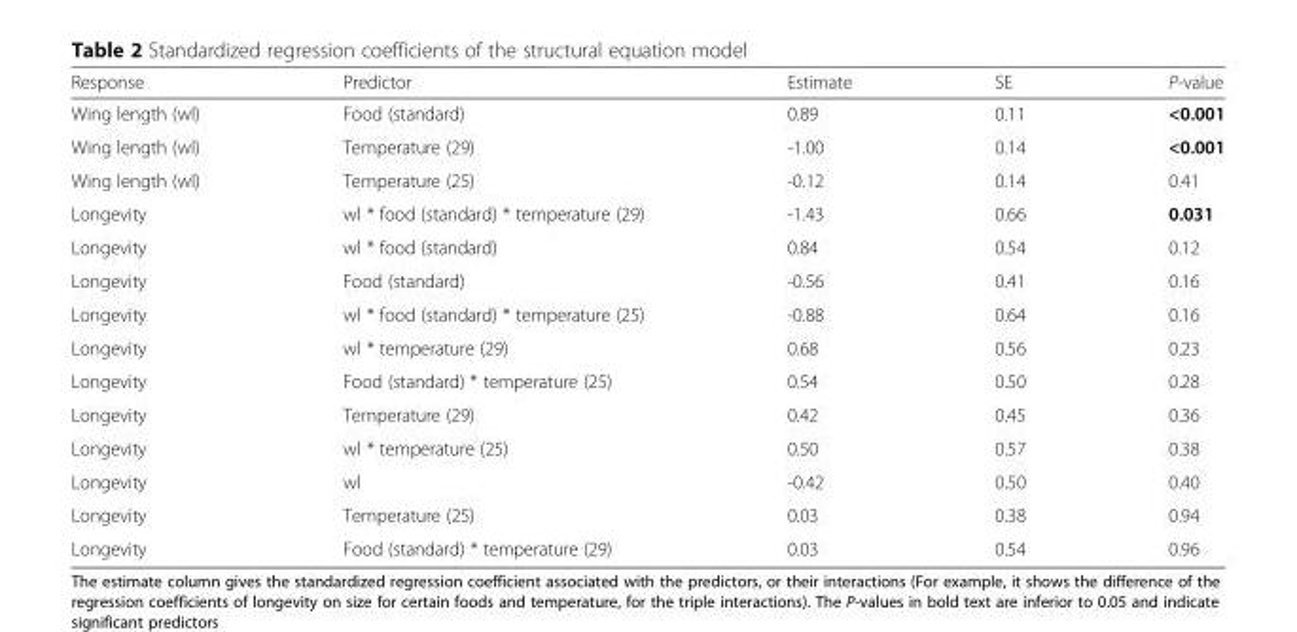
<table><thead><tr><td>Response</td><td>Predictor</td><td>Estimate</td><td>SE</td><td>P-value</td></tr></thead><tbody><tr><td>Wing length (wl)</td><td>Food (standard)</td><td>0.89</td><td>0.11</td><td>&lt;0.001</td></tr><tr><td>Wing length (wl)</td><td>Temperature (29)</td><td>-1.00</td><td>0.14</td><td>&lt;0.001</td></tr><tr><td>Wing length (wl)</td><td>Temperature (25)</td><td>-0.12</td><td>0.14</td><td>0.41</td></tr><tr><td>Longevity</td><td>wl * food (standard) * temperature (29)</td><td>-1.43</td><td>0.66</td><td>0.031</td></tr><tr><td>Longevity</td><td>wl * food (standard)</td><td>0.84</td><td>0.54</td><td>0.12</td></tr><tr><td>Longevity</td><td>Food (standard)</td><td>-0.56</td><td>0.41</td><td>0.16</td></tr><tr><td>Longevity</td><td>wl * food (standard) * temperature (25)</td><td>-0.88</td><td>0.64</td><td>0.16</td></tr><tr><td>Longevity</td><td>wl * temperature (29)</td><td>0.68</td><td>0.56</td><td>0.23</td></tr><tr><td>Longevity</td><td>Food (standard) * temperature (25)</td><td>0.54</td><td>0.50</td><td>0.28</td></tr><tr><td>Longevity</td><td>Temperature (29)</td><td>0.42</td><td>0.45</td><td>0.36</td></tr><tr><td>Longevity</td><td>wl * temperature (25)</td><td>0.50</td><td>0.57</td><td>0.38</td></tr><tr><td>Longevity</td><td>wl</td><td>-0.42</td><td>0.50</td><td>0.40</td></tr><tr><td>Longevity</td><td>Temperature (25)</td><td>0.03</td><td>0.38</td><td>0.94</td></tr><tr><td>Longevity</td><td>Food (standard) * temperature (29)</td><td>0.03</td><td>0.54</td><td>0.96</td></tr></tbody></table>